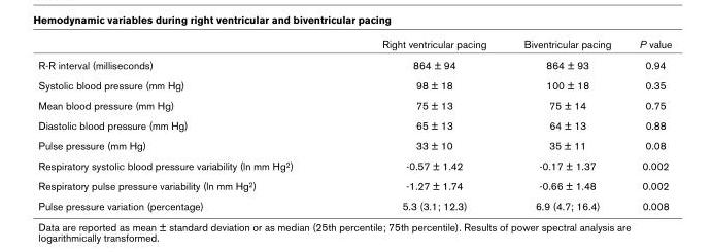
<table><thead><tr><td></td><td>Right ventricular pacing</td><td>Biventricular pacing</td><td>P value</td></tr></thead><tbody><tr><td>R-R interval (milliseconds)</td><td>864 ± 94</td><td>864 ± 93</td><td>0.94</td></tr><tr><td>Systolic blood pressure (mm Hg)</td><td>98 ± 18</td><td>100 ± 18</td><td>0.35</td></tr><tr><td>Mean blood pressure (mm Hg)</td><td>75 ± 13</td><td>75 ± 14</td><td>0.75</td></tr><tr><td>Diastolic blood pressure (mm Hg)</td><td>65 ± 13</td><td>64 ± 13</td><td>0.88</td></tr><tr><td>Pulse pressure (mm Hg)</td><td>33 ± 10</td><td>35 ± 11</td><td>0.08</td></tr><tr><td>Respiratory systolic blood pressure variability (ln mm Hg<sup>2</sup>)</td><td>-0.57 ± 1.42</td><td>-0.17 ± 1.37</td><td>0.002</td></tr><tr><td>Respiratory pulse pressure variability (ln mm Hg<sup>2</sup>)</td><td>-1.27 ± 1.74</td><td>-0.66 ± 1.48</td><td>0.002</td></tr><tr><td>Pulse pressure variation (percentage)</td><td>5.3 (3.1; 12.3)</td><td>6.9 (4.7; 16.4)</td><td>0.008</td></tr></tbody></table>